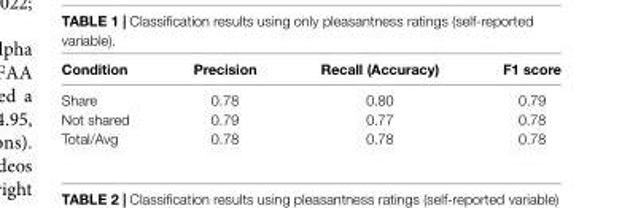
<table><thead><tr><td>Condition</td><td>Precision</td><td>Recall (Accuracy)</td><td>F1 score</td></tr></thead><tbody><tr><td>Share</td><td>0.78</td><td>0.80</td><td>0.79</td></tr><tr><td>Not shared</td><td>0.79</td><td>0.77</td><td>0.78</td></tr><tr><td>Total/Avg</td><td>0.78</td><td>0.78</td><td>0.78</td></tr></tbody></table>